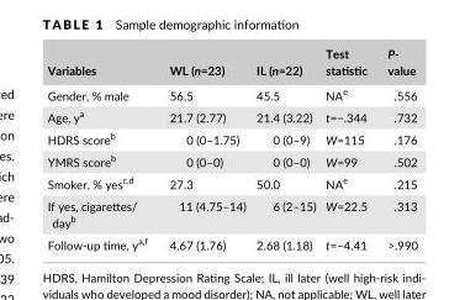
<table><thead><tr><td>Variables</td><td>WL (n=23)</td><td>IL (n=22)</td><td>Test statistic</td><td>P- value</td></tr></thead><tbody><tr><td>Gender, % male</td><td>56.5</td><td>45.5</td><td>NA<sup>e</sup></td><td>.556</td></tr><tr><td>Age, y<sup>a</sup></td><td>21.7 (2.77)</td><td>21.4 (3.22)</td><td>t=−.344</td><td>.732</td></tr><tr><td>HDRS score<sup>b</sup></td><td>0 (0–1.75)</td><td>0 (0–9)</td><td>W=115</td><td>.176</td></tr><tr><td>YMRS score<sup>b</sup></td><td>0 (0–0)</td><td>0 (0–0)</td><td>W=99</td><td>.502</td></tr><tr><td>Smoker, % yes<sup>c,</sup>d</td><td>27.3</td><td>50.0</td><td>NA<sup>e</sup></td><td>.215</td></tr><tr><td>If yes, cigarettes/ day<sup>b</sup></td><td>11 (4.75–14)</td><td>6 (2–15)</td><td>W=22.5</td><td>.313</td></tr><tr><td>Follow- up time, y<sup>a,</sup>f</td><td>4.67 (1.76)</td><td>2.68 (1.18)</td><td>t=−4.41</td><td>&gt;.990</td></tr></tbody></table>